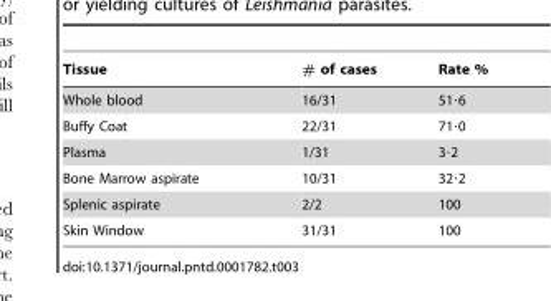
<table><thead><tr><td>Tissue</td><td># of cases</td><td>Rate %</td></tr></thead><tbody><tr><td>Whole blood</td><td>16/31</td><td>51·6</td></tr><tr><td>Buffy Coat</td><td>22/31</td><td>71·0</td></tr><tr><td>Plasma</td><td>1/31</td><td>3·2</td></tr><tr><td>Bone Marrow aspirate</td><td>10/31</td><td>32·2</td></tr><tr><td>Splenic aspirate</td><td>2/2</td><td>100</td></tr><tr><td>Skin Window</td><td>31/31</td><td>100</td></tr></tbody></table>